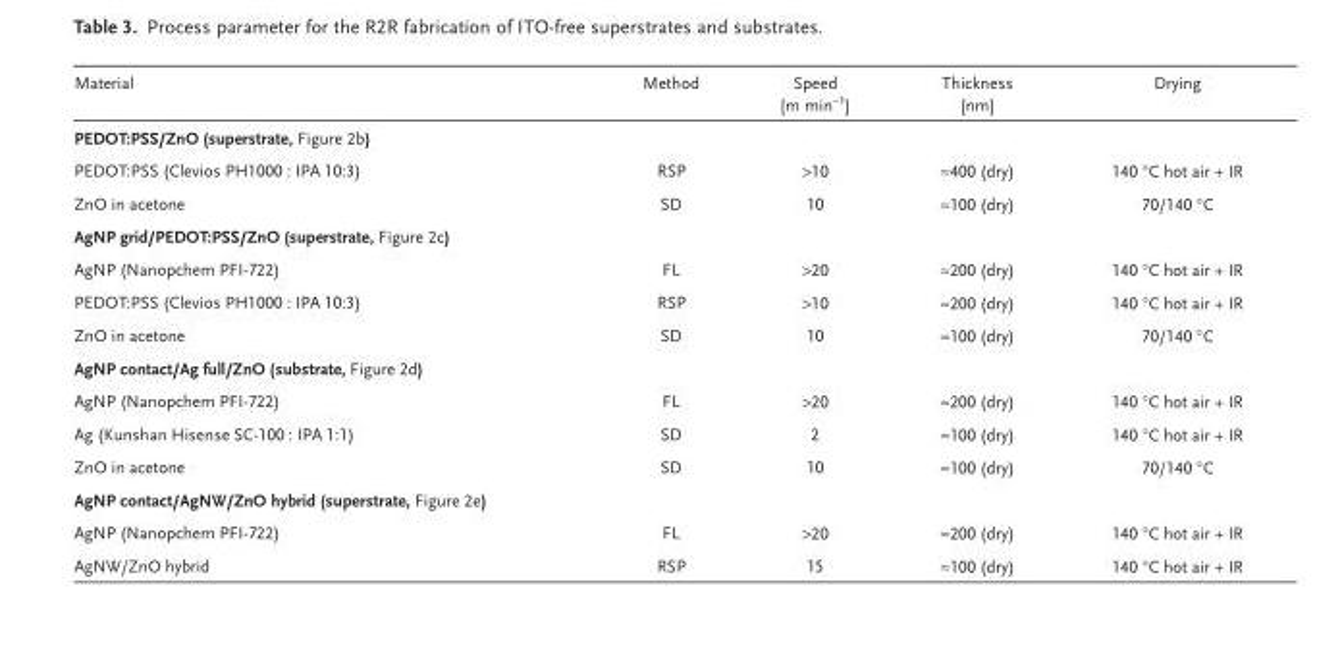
<table><thead><tr><td>Material</td><td>Method</td><td>Speed [m min <sup>−1</sup> ]</td><td>Thickness [nm]</td><td>Drying</td></tr></thead><tbody><tr><td colspan="5">PEDOT:PSS/ZnO (superstrate , Figure 2 b )</td></tr><tr><td>PEDOT:PSS (Clevios PH1000 : IPA 10:3)</td><td>RSP</td><td>&gt;10</td><td>≈400 (dry)</td><td>140 °C hot air + IR</td></tr><tr><td>ZnO in acetone</td><td>SD</td><td>10</td><td>≈100 (dry)</td><td>70/140 °C</td></tr><tr><td colspan="5">AgNP grid/PEDOT:PSS/ZnO (superstrate, Figure 2 c )</td></tr><tr><td>AgNP (Nanopchem PFI-722)</td><td>FL</td><td>&gt;20</td><td>≈200 (dry)</td><td>140 °C hot air + IR</td></tr><tr><td>PEDOT:PSS (Clevios PH1000 : IPA 10:3)</td><td>RSP</td><td>&gt;10</td><td>≈200 (dry)</td><td>140 °C hot air + IR</td></tr><tr><td>ZnO in acetone</td><td>SD</td><td>10</td><td>≈100 (dry)</td><td>70/140 °C</td></tr><tr><td colspan="5">AgNP contact/Ag full/ZnO (substrate, Figure 2 d )</td></tr><tr><td>AgNP (Nanopchem PFI-722)</td><td>FL</td><td>&gt;20</td><td>≈200 (dry)</td><td>140 °C hot air + IR</td></tr><tr><td>Ag (Kunshan Hisense SC-100 : IPA 1:1)</td><td>SD</td><td>2</td><td>≈100 (dry)</td><td>140 °C hot air + IR</td></tr><tr><td>ZnO in acetone</td><td>SD</td><td>10</td><td>≈100 (dry)</td><td>70/140 °C</td></tr><tr><td colspan="5">AgNP contact/AgNW/ZnO hybrid (superstrate, Figure 2 e )</td></tr><tr><td>AgNP (Nanopchem PFI-722)</td><td>FL</td><td>&gt;20</td><td>≈200 (dry)</td><td>140 °C hot air + IR</td></tr><tr><td>AgNW/ZnO hybrid</td><td>RSP</td><td>15</td><td>≈100 (dry)</td><td>140 °C hot air + IR</td></tr></tbody></table>